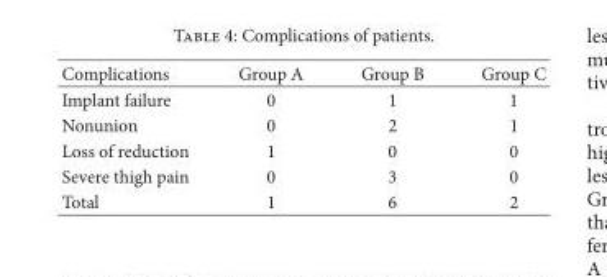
<table><thead><tr><td>Complications</td><td>Group A</td><td>Group B</td><td>Group C</td></tr></thead><tbody><tr><td>Implant failure</td><td>0</td><td>1</td><td>1</td></tr><tr><td>Nonunion</td><td>0</td><td>2</td><td>1</td></tr><tr><td>Loss of reduction</td><td>1</td><td>0</td><td>0</td></tr><tr><td>Severe thigh pain</td><td>0</td><td>3</td><td>0</td></tr><tr><td>Total</td><td>1</td><td>6</td><td>2</td></tr></tbody></table>